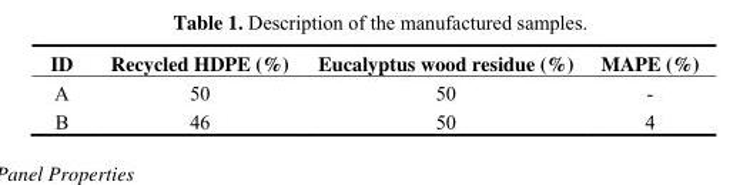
<table><thead><tr><td>ID</td><td>Recycled HDPE (%)</td><td>Eucalyptus wood residue (%)</td><td>MAPE (%)</td></tr></thead><tbody><tr><td>A</td><td>50</td><td>50</td><td>-</td></tr><tr><td>B</td><td>46</td><td>50</td><td>4</td></tr></tbody></table>